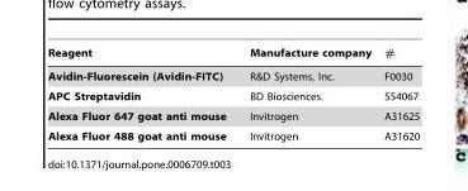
<table><thead><tr><td>Reagent</td><td>Manufacture company</td><td>#</td></tr></thead><tbody><tr><td>Avidin-Fluorescein (Avidin-FITC)</td><td>R&amp;D Systems, Inc.</td><td>F0030</td></tr><tr><td>APC Streptavidin</td><td>BD Biosciences.</td><td>554067</td></tr><tr><td>Alexa Fluor 647 goat anti mouse</td><td>Invitrogen</td><td>A31625</td></tr><tr><td>Alexa Fluor 488 goat anti mouse</td><td>Invitrogen</td><td>A31620</td></tr></tbody></table>